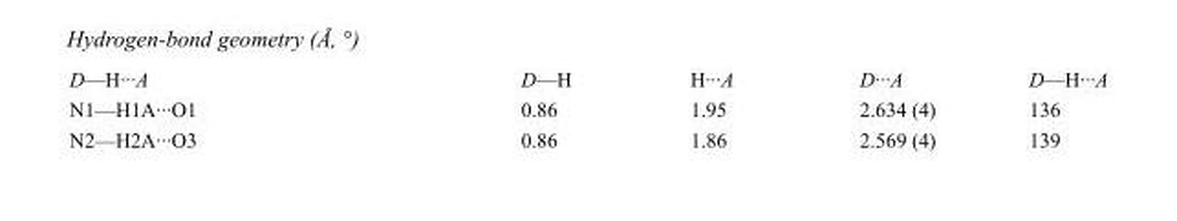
<table><tbody><tr><td>D—H···A</td><td>D—H</td><td>H···A</td><td>D···A</td><td>D—H···A</td></tr><tr><td>N1—H1A···O1</td><td>0.86</td><td>1.95</td><td>2.634 (4)</td><td>136</td></tr><tr><td>N2—H2A···O3</td><td>0.86</td><td>1.86</td><td>2.569 (4)</td><td>139</td></tr></tbody></table>